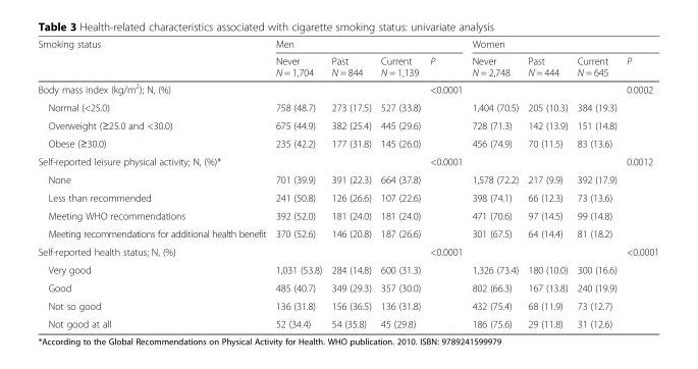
<table><thead><tr><td rowspan="2">Smoking status</td><td colspan="4">Men</td><td colspan="4">Women</td></tr><tr><td>Never N = 1,704</td><td>Past N = 844</td><td>Current N = 1,139</td><td>P</td><td>Never N = 2,748</td><td>Past N = 444</td><td>Current N = 645</td><td>P</td></tr></thead><tbody><tr><td>Body mass index (kg/m<sup>2</sup>); N, (%)</td><td></td><td></td><td></td><td>&lt;0.0001</td><td></td><td></td><td></td><td>0.0002</td></tr><tr><td>Normal (&lt;25.0)</td><td>758 (48.7)</td><td>273 (17.5)</td><td>527 (33.8)</td><td></td><td>1,404 (70.5)</td><td>205 (10.3)</td><td>384 (19.3)</td><td></td></tr><tr><td>Overweight (≥25.0 and &lt;30.0)</td><td>675 (44.9)</td><td>382 (25.4)</td><td>445 (29.6)</td><td></td><td>728 (71.3)</td><td>142 (13.9)</td><td>151 (14.8)</td><td></td></tr><tr><td>Obese (≥30.0)</td><td>235 (42.2)</td><td>177 (31.8)</td><td>145 (26.0)</td><td></td><td>456 (74.9)</td><td>70 (11.5)</td><td>83 (13.6)</td><td></td></tr><tr><td>Self-reported leisure physical activity; N, (%)*</td><td></td><td></td><td></td><td>&lt;0.0001</td><td></td><td></td><td></td><td>0.0012</td></tr><tr><td>None</td><td>701 (39.9)</td><td>391 (22.3)</td><td>664 (37.8)</td><td></td><td>1,578 (72.2)</td><td>217 (9.9)</td><td>392 (17.9)</td><td></td></tr><tr><td>Less than recommended</td><td>241 (50.8)</td><td>126 (26.6)</td><td>107 (22.6)</td><td></td><td>398 (74.1)</td><td>66 (12.3)</td><td>73 (13.6)</td><td></td></tr><tr><td>Meeting WHO recommendations</td><td>392 (52.0)</td><td>181 (24.0)</td><td>181 (24.0)</td><td></td><td>471 (70.6)</td><td>97 (14.5)</td><td>99 (14.8)</td><td></td></tr><tr><td>Meeting recommendations for additional health benefit</td><td>370 (52.6)</td><td>146 (20.8)</td><td>187 (26.6)</td><td></td><td>301 (67.5)</td><td>64 (14.4)</td><td>81 (18.2)</td><td></td></tr><tr><td>Self-reported health status; N, (%)</td><td></td><td></td><td></td><td>&lt;0.0001</td><td></td><td></td><td></td><td>&lt;0.0001</td></tr><tr><td>Very good</td><td>1,031 (53.8)</td><td>284 (14.8)</td><td>600 (31.3)</td><td></td><td>1,326 (73.4)</td><td>180 (10.0)</td><td>300 (16.6)</td><td></td></tr><tr><td>Good</td><td>485 (40.7)</td><td>349 (29.3)</td><td>357 (30.0)</td><td></td><td>802 (66.3)</td><td>167 (13.8)</td><td>240 (19.9)</td><td></td></tr><tr><td>Not so good</td><td>136 (31.8)</td><td>156 (36.5)</td><td>136 (31.8)</td><td></td><td>432 (75.4)</td><td>68 (11.9)</td><td>73 (12.7)</td><td></td></tr><tr><td>Not good at all</td><td>52 (34.4)</td><td>54 (35.8)</td><td>45 (29.8)</td><td></td><td>186 (75.6)</td><td>29 (11.8)</td><td>31 (12.6)</td><td></td></tr></tbody></table>